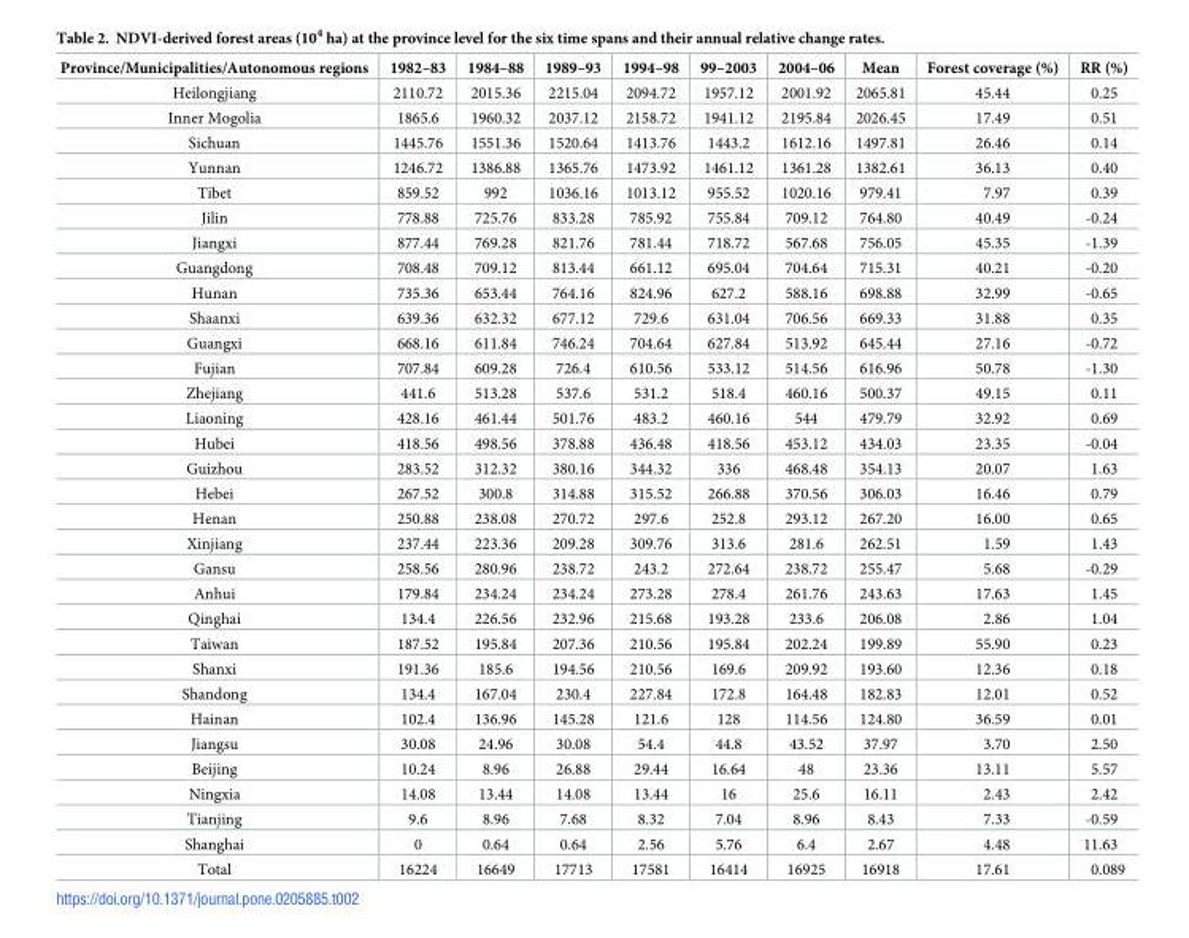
<table><thead><tr><td>Province/Municipalities/Autonomous regions</td><td>1982–83</td><td>1984–88</td><td>1989–93</td><td>1994–98</td><td>99–2003</td><td>2004–06</td><td>Mean</td><td>Forest coverage (%)</td><td>RR (%)</td></tr></thead><tbody><tr><td>Heilongjiang</td><td>2110.72</td><td>2015.36</td><td>2215.04</td><td>2094.72</td><td>1957.12</td><td>2001.92</td><td>2065.81</td><td>45.44</td><td>0.25</td></tr><tr><td>Inner Mogolia</td><td>1865.6</td><td>1960.32</td><td>2037.12</td><td>2158.72</td><td>1941.12</td><td>2195.84</td><td>2026.45</td><td>17.49</td><td>0.51</td></tr><tr><td>Sichuan</td><td>1445.76</td><td>1551.36</td><td>1520.64</td><td>1413.76</td><td>1443.2</td><td>1612.16</td><td>1497.81</td><td>26.46</td><td>0.14</td></tr><tr><td>Yunnan</td><td>1246.72</td><td>1386.88</td><td>1365.76</td><td>1473.92</td><td>1461.12</td><td>1361.28</td><td>1382.61</td><td>36.13</td><td>0.40</td></tr><tr><td>Tibet</td><td>859.52</td><td>992</td><td>1036.16</td><td>1013.12</td><td>955.52</td><td>1020.16</td><td>979.41</td><td>7.97</td><td>0.39</td></tr><tr><td>Jilin</td><td>778.88</td><td>725.76</td><td>833.28</td><td>785.92</td><td>755.84</td><td>709.12</td><td>764.80</td><td>40.49</td><td>-0.24</td></tr><tr><td>Jiangxi</td><td>877.44</td><td>769.28</td><td>821.76</td><td>781.44</td><td>718.72</td><td>567.68</td><td>756.05</td><td>45.35</td><td>-1.39</td></tr><tr><td>Guangdong</td><td>708.48</td><td>709.12</td><td>813.44</td><td>661.12</td><td>695.04</td><td>704.64</td><td>715.31</td><td>40.21</td><td>-0.20</td></tr><tr><td>Hunan</td><td>735.36</td><td>653.44</td><td>764.16</td><td>824.96</td><td>627.2</td><td>588.16</td><td>698.88</td><td>32.99</td><td>-0.65</td></tr><tr><td>Shaanxi</td><td>639.36</td><td>632.32</td><td>677.12</td><td>729.6</td><td>631.04</td><td>706.56</td><td>669.33</td><td>31.88</td><td>0.35</td></tr><tr><td>Guangxi</td><td>668.16</td><td>611.84</td><td>746.24</td><td>704.64</td><td>627.84</td><td>513.92</td><td>645.44</td><td>27.16</td><td>-0.72</td></tr><tr><td>Fujian</td><td>707.84</td><td>609.28</td><td>726.4</td><td>610.56</td><td>533.12</td><td>514.56</td><td>616.96</td><td>50.78</td><td>-1.30</td></tr><tr><td>Zhejiang</td><td>441.6</td><td>513.28</td><td>537.6</td><td>531.2</td><td>518.4</td><td>460.16</td><td>500.37</td><td>49.15</td><td>0.11</td></tr><tr><td>Liaoning</td><td>428.16</td><td>461.44</td><td>501.76</td><td>483.2</td><td>460.16</td><td>544</td><td>479.79</td><td>32.92</td><td>0.69</td></tr><tr><td>Hubei</td><td>418.56</td><td>498.56</td><td>378.88</td><td>436.48</td><td>418.56</td><td>453.12</td><td>434.03</td><td>23.35</td><td>-0.04</td></tr><tr><td>Guizhou</td><td>283.52</td><td>312.32</td><td>380.16</td><td>344.32</td><td>336</td><td>468.48</td><td>354.13</td><td>20.07</td><td>1.63</td></tr><tr><td>Hebei</td><td>267.52</td><td>300.8</td><td>314.88</td><td>315.52</td><td>266.88</td><td>370.56</td><td>306.03</td><td>16.46</td><td>0.79</td></tr><tr><td>Henan</td><td>250.88</td><td>238.08</td><td>270.72</td><td>297.6</td><td>252.8</td><td>293.12</td><td>267.20</td><td>16.00</td><td>0.65</td></tr><tr><td>Xinjiang</td><td>237.44</td><td>223.36</td><td>209.28</td><td>309.76</td><td>313.6</td><td>281.6</td><td>262.51</td><td>1.59</td><td>1.43</td></tr><tr><td>Gansu</td><td>258.56</td><td>280.96</td><td>238.72</td><td>243.2</td><td>272.64</td><td>238.72</td><td>255.47</td><td>5.68</td><td>-0.29</td></tr><tr><td>Anhui</td><td>179.84</td><td>234.24</td><td>234.24</td><td>273.28</td><td>278.4</td><td>261.76</td><td>243.63</td><td>17.63</td><td>1.45</td></tr><tr><td>Qinghai</td><td>134.4</td><td>226.56</td><td>232.96</td><td>215.68</td><td>193.28</td><td>233.6</td><td>206.08</td><td>2.86</td><td>1.04</td></tr><tr><td>Taiwan</td><td>187.52</td><td>195.84</td><td>207.36</td><td>210.56</td><td>195.84</td><td>202.24</td><td>199.89</td><td>55.90</td><td>0.23</td></tr><tr><td>Shanxi</td><td>191.36</td><td>185.6</td><td>194.56</td><td>210.56</td><td>169.6</td><td>209.92</td><td>193.60</td><td>12.36</td><td>0.18</td></tr><tr><td>Shandong</td><td>134.4</td><td>167.04</td><td>230.4</td><td>227.84</td><td>172.8</td><td>164.48</td><td>182.83</td><td>12.01</td><td>0.52</td></tr><tr><td>Hainan</td><td>102.4</td><td>136.96</td><td>145.28</td><td>121.6</td><td>128</td><td>114.56</td><td>124.80</td><td>36.59</td><td>0.01</td></tr><tr><td>Jiangsu</td><td>30.08</td><td>24.96</td><td>30.08</td><td>54.4</td><td>44.8</td><td>43.52</td><td>37.97</td><td>3.70</td><td>2.50</td></tr><tr><td>Beijing</td><td>10.24</td><td>8.96</td><td>26.88</td><td>29.44</td><td>16.64</td><td>48</td><td>23.36</td><td>13.11</td><td>5.57</td></tr><tr><td>Ningxia</td><td>14.08</td><td>13.44</td><td>14.08</td><td>13.44</td><td>16</td><td>25.6</td><td>16.11</td><td>2.43</td><td>2.42</td></tr><tr><td>Tianjing</td><td>9.6</td><td>8.96</td><td>7.68</td><td>8.32</td><td>7.04</td><td>8.96</td><td>8.43</td><td>7.33</td><td>-0.59</td></tr><tr><td>Shanghai</td><td>0</td><td>0.64</td><td>0.64</td><td>2.56</td><td>5.76</td><td>6.4</td><td>2.67</td><td>4.48</td><td>11.63</td></tr><tr><td>Total</td><td>16224</td><td>16649</td><td>17713</td><td>17581</td><td>16414</td><td>16925</td><td>16918</td><td>17.61</td><td>0.089</td></tr></tbody></table>